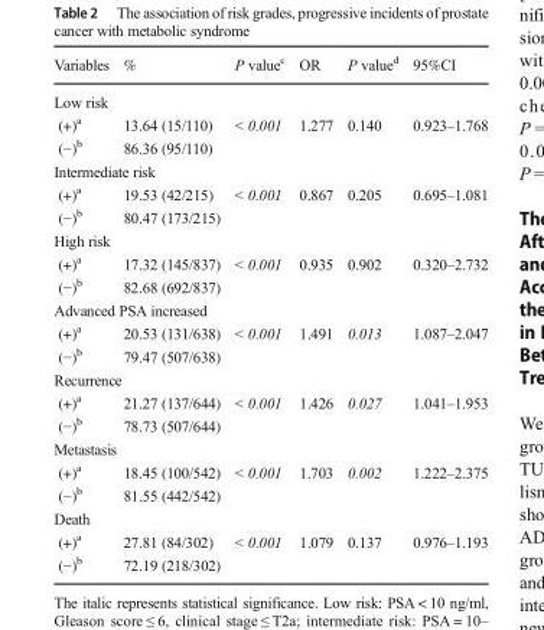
<table><thead><tr><td>Variables</td><td>%</td><td>P value<sup>c</sup></td><td>OR</td><td>P value<sup>d</sup></td><td>95%CI</td></tr></thead><tbody><tr><td colspan="6">Low risk</td></tr><tr><td>(+)<sup>a</sup></td><td>13.64 (15/110)</td><td>&lt; 0.001</td><td>1.277</td><td>0.140</td><td>0.923–1.768</td></tr><tr><td>(−)<sup>b</sup></td><td>86.36 (95/110)</td><td></td><td></td><td></td><td></td></tr><tr><td colspan="6">Intermediate risk</td></tr><tr><td>(+)<sup>a</sup></td><td>19.53 (42/215)</td><td>&lt; 0.001</td><td>0.867</td><td>0.205</td><td>0.695–1.081</td></tr><tr><td>(−)<sup>b</sup></td><td>80.47 (173/215)</td><td></td><td></td><td></td><td></td></tr><tr><td colspan="6">High risk</td></tr><tr><td>(+)<sup>a</sup></td><td>17.32 (145/837)</td><td>&lt; 0.001</td><td>0.935</td><td>0.902</td><td>0.320–2.732</td></tr><tr><td>(−)<sup>b</sup></td><td>82.68 (692/837)</td><td></td><td></td><td></td><td></td></tr><tr><td colspan="6">Advanced PSA increased</td></tr><tr><td>(+)<sup>a</sup></td><td>20.53 (131/638)</td><td>&lt; 0.001</td><td>1.491</td><td>0.013</td><td>1.087–2.047</td></tr><tr><td>(−)<sup>b</sup></td><td>79.47 (507/638)</td><td></td><td></td><td></td><td></td></tr><tr><td colspan="6">Recurrence</td></tr><tr><td>(+)<sup>a</sup></td><td>21.27 (137/644)</td><td>&lt; 0.001</td><td>1.426</td><td>0.027</td><td>1.041–1.953</td></tr><tr><td>(−)<sup>b</sup></td><td>78.73 (507/644)</td><td></td><td></td><td></td><td></td></tr><tr><td colspan="6">Metastasis</td></tr><tr><td>(+)<sup>a</sup></td><td>18.45 (100/542)</td><td>&lt; 0.001</td><td>1.703</td><td>0.002</td><td>1.222–2.375</td></tr><tr><td>(−)<sup>b</sup></td><td>81.55 (442/542)</td><td></td><td></td><td></td><td></td></tr><tr><td colspan="6">Death</td></tr><tr><td>(+)<sup>a</sup></td><td>27.81 (84/302)</td><td>&lt; 0.001</td><td>1.079</td><td>0.137</td><td>0.976–1.193</td></tr><tr><td>(−)<sup>b</sup></td><td>72.19 (218/302)</td><td></td><td></td><td></td><td></td></tr></tbody></table>